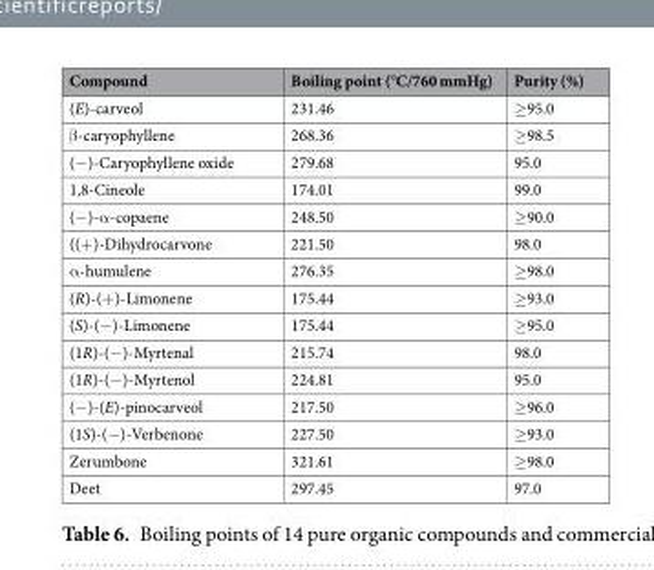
<table><thead><tr><td>Compound</td><td>Boiling point (°C/760 mmHg)</td><td>Purity (%)</td></tr></thead><tbody><tr><td>(E)-carveol</td><td>231.46</td><td>≥95.0</td></tr><tr><td>β-caryophyllene</td><td>268.36</td><td>≥98.5</td></tr><tr><td>(−)-Caryophyllene oxide</td><td>279.68</td><td>95.0</td></tr><tr><td>1,8-Cineole</td><td>174.01</td><td>99.0</td></tr><tr><td>(−)-α-copaene</td><td>248.50</td><td>≥90.0</td></tr><tr><td>((+)-Dihydrocarvone</td><td>221.50</td><td>98.0</td></tr><tr><td>α-humulene</td><td>276.35</td><td>≥98.0</td></tr><tr><td>(R)-(+)-Limonene</td><td>175.44</td><td>≥93.0</td></tr><tr><td>(S)-(−)-Limonene</td><td>175.44</td><td>≥95.0</td></tr><tr><td>(1R)-(−)-Myrtenal</td><td>215.74</td><td>98.0</td></tr><tr><td>(1R)-(−)-Myrtenol</td><td>224.81</td><td>95.0</td></tr><tr><td>(−)-(E)-pinocarveol</td><td>217.50</td><td>≥96.0</td></tr><tr><td>(1S)-(−)-Verbenone</td><td>227.50</td><td>≥93.0</td></tr><tr><td>Zerumbone</td><td>321.61</td><td>≥98.0</td></tr><tr><td>Deet</td><td>297.45</td><td>97.0</td></tr></tbody></table>